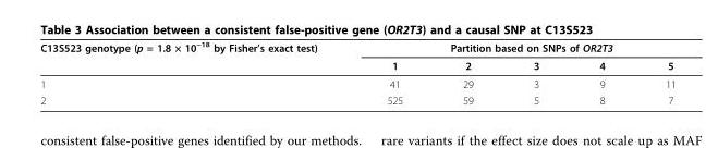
<table><thead><tr><td rowspan="2">C13S523 genotype (p = 1.8 × 10<sup>−18</sup> by Fisher’s exact test)</td><td colspan="5">Partition based on SNPs of OR2T3</td></tr><tr><td>1</td><td>2</td><td>3</td><td>4</td><td>5</td></tr></thead><tbody><tr><td>1</td><td>41</td><td>29</td><td>3</td><td>9</td><td>11</td></tr><tr><td>2</td><td>525</td><td>59</td><td>5</td><td>8</td><td>7</td></tr></tbody></table>